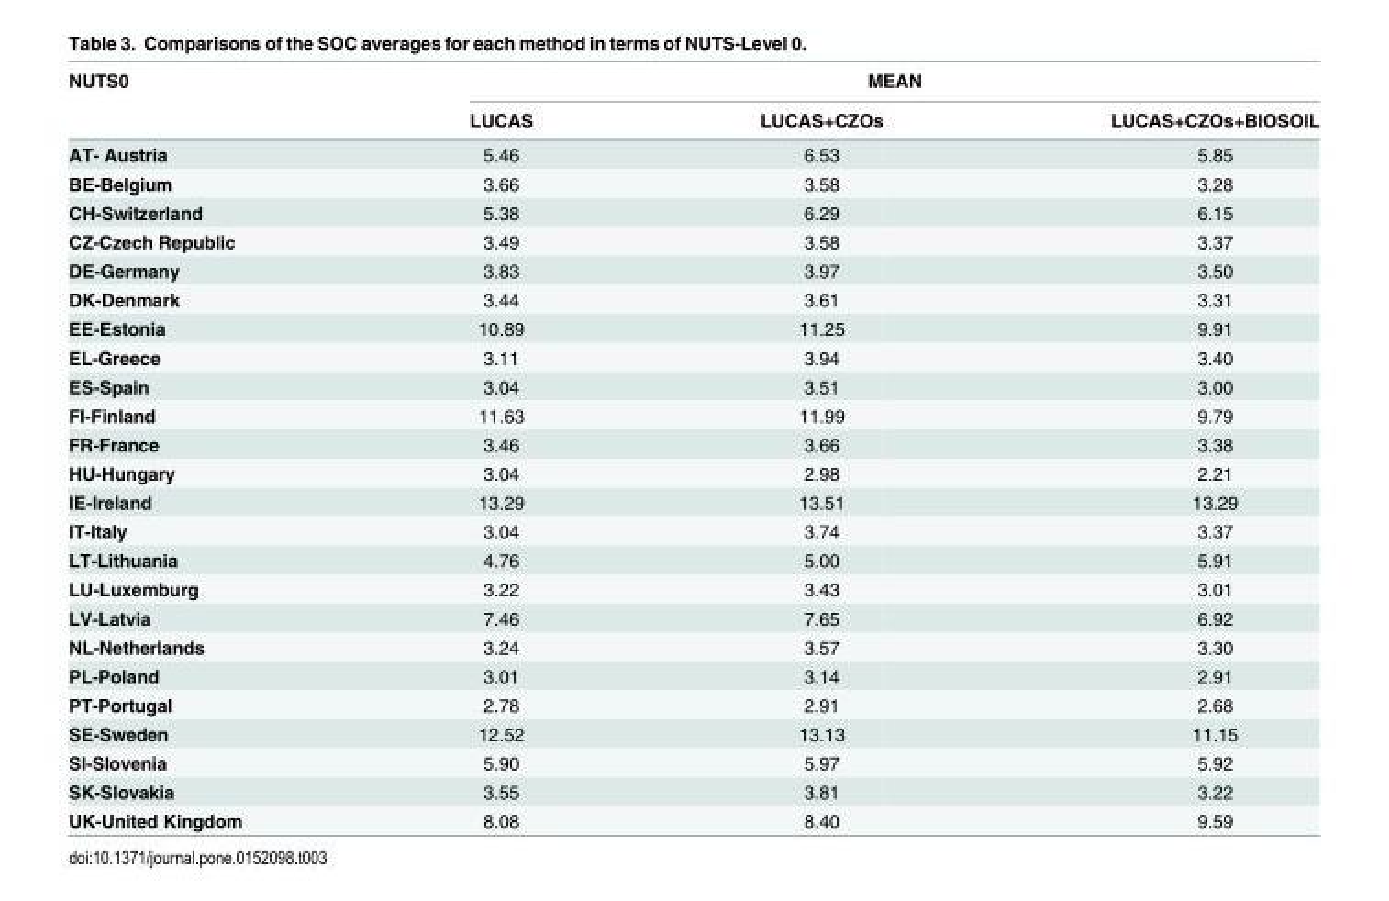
<table><thead><tr><td rowspan="2">NUTS0</td><td colspan="3">MEAN</td></tr><tr><td>LUCAS</td><td>LUCAS+CZOs</td><td>LUCAS+CZOs+BIOSOIL</td></tr></thead><tbody><tr><td>AT- Austria</td><td>5.46</td><td>6.53</td><td>5.85</td></tr><tr><td>BE-Belgium</td><td>3.66</td><td>3.58</td><td>3.28</td></tr><tr><td>CH-Switzerland</td><td>5.38</td><td>6.29</td><td>6.15</td></tr><tr><td>CZ-Czech Republic</td><td>3.49</td><td>3.58</td><td>3.37</td></tr><tr><td>DE-Germany</td><td>3.83</td><td>3.97</td><td>3.50</td></tr><tr><td>DK-Denmark</td><td>3.44</td><td>3.61</td><td>3.31</td></tr><tr><td>EE-Estonia</td><td>10.89</td><td>11.25</td><td>9.91</td></tr><tr><td>EL-Greece</td><td>3.11</td><td>3.94</td><td>3.40</td></tr><tr><td>ES-Spain</td><td>3.04</td><td>3.51</td><td>3.00</td></tr><tr><td>FI-Finland</td><td>11.63</td><td>11.99</td><td>9.79</td></tr><tr><td>FR-France</td><td>3.46</td><td>3.66</td><td>3.38</td></tr><tr><td>HU-Hungary</td><td>3.04</td><td>2.98</td><td>2.21</td></tr><tr><td>IE-Ireland</td><td>13.29</td><td>13.51</td><td>13.29</td></tr><tr><td>IT-Italy</td><td>3.04</td><td>3.74</td><td>3.37</td></tr><tr><td>LT-Lithuania</td><td>4.76</td><td>5.00</td><td>5.91</td></tr><tr><td>LU-Luxemburg</td><td>3.22</td><td>3.43</td><td>3.01</td></tr><tr><td>LV-Latvia</td><td>7.46</td><td>7.65</td><td>6.92</td></tr><tr><td>NL-Netherlands</td><td>3.24</td><td>3.57</td><td>3.30</td></tr><tr><td>PL-Poland</td><td>3.01</td><td>3.14</td><td>2.91</td></tr><tr><td>PT-Portugal</td><td>2.78</td><td>2.91</td><td>2.68</td></tr><tr><td>SE-Sweden</td><td>12.52</td><td>13.13</td><td>11.15</td></tr><tr><td>SI-Slovenia</td><td>5.90</td><td>5.97</td><td>5.92</td></tr><tr><td>SK-Slovakia</td><td>3.55</td><td>3.81</td><td>3.22</td></tr><tr><td>UK-United Kingdom</td><td>8.08</td><td>8.40</td><td>9.59</td></tr></tbody></table>